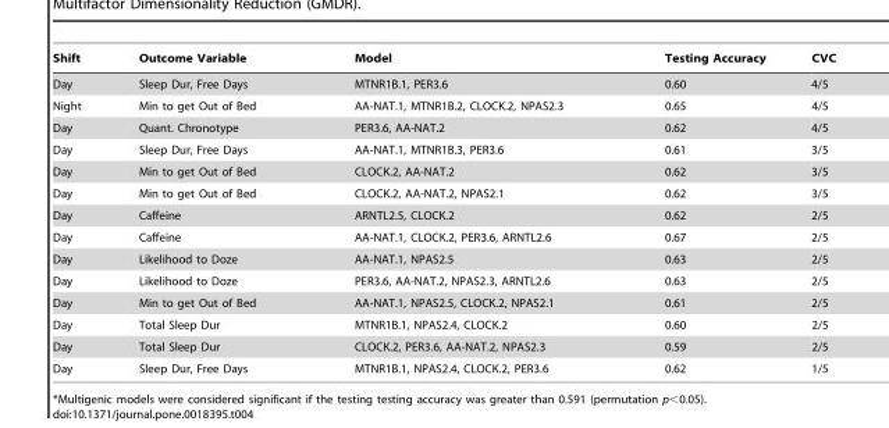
<table><thead><tr><td>Shift</td><td>Outcome Variable</td><td>Model</td><td>Testing Accuracy</td><td>CVC</td></tr></thead><tbody><tr><td>Day</td><td>Sleep Dur, Free Days</td><td>MTNR1B.1, PER3.6</td><td>0.60</td><td>4/5</td></tr><tr><td>Night</td><td>Min to get Out of Bed</td><td>AA-NAT.1, MTNR1B.2, CLOCK.2, NPAS2.3</td><td>0.65</td><td>4/5</td></tr><tr><td>Day</td><td>Quant. Chronotype</td><td>PER3.6, AA-NAT.2</td><td>0.62</td><td>4/5</td></tr><tr><td>Day</td><td>Sleep Dur, Free Days</td><td>AA-NAT.1, MTNR1B.3, PER3.6</td><td>0.61</td><td>3/5</td></tr><tr><td>Day</td><td>Min to get Out of Bed</td><td>CLOCK.2, AA-NAT.2</td><td>0.62</td><td>3/5</td></tr><tr><td>Day</td><td>Min to get Out of Bed</td><td>CLOCK.2, AA-NAT.2, NPAS2.1</td><td>0.62</td><td>3/5</td></tr><tr><td>Day</td><td>Caffeine</td><td>ARNTL2.5, CLOCK.2</td><td>0.62</td><td>2/5</td></tr><tr><td>Day</td><td>Caffeine</td><td>AA-NAT.1, CLOCK.2, PER3.6, ARNTL2.6</td><td>0.67</td><td>2/5</td></tr><tr><td>Day</td><td>Likelihood to Doze</td><td>AA-NAT.1, NPAS2.5</td><td>0.63</td><td>2/5</td></tr><tr><td>Day</td><td>Likelihood to Doze</td><td>PER3.6, AA-NAT.2, NPAS2.3, ARNTL2.6</td><td>0.63</td><td>2/5</td></tr><tr><td>Day</td><td>Min to get Out of Bed</td><td>AA-NAT.1, NPAS2.5, CLOCK.2, NPAS2.1</td><td>0.61</td><td>2/5</td></tr><tr><td>Day</td><td>Total Sleep Dur</td><td>MTNR1B.1, NPAS2.4, CLOCK.2</td><td>0.60</td><td>2/5</td></tr><tr><td>Day</td><td>Total Sleep Dur</td><td>CLOCK.2, PER3.6, AA-NAT.2, NPAS2.3</td><td>0.59</td><td>2/5</td></tr><tr><td>Day</td><td>Sleep Dur, Free Days</td><td>MTNR1B.1, NPAS2.4, CLOCK.2, PER3.6</td><td>0.62</td><td>1/5</td></tr></tbody></table>